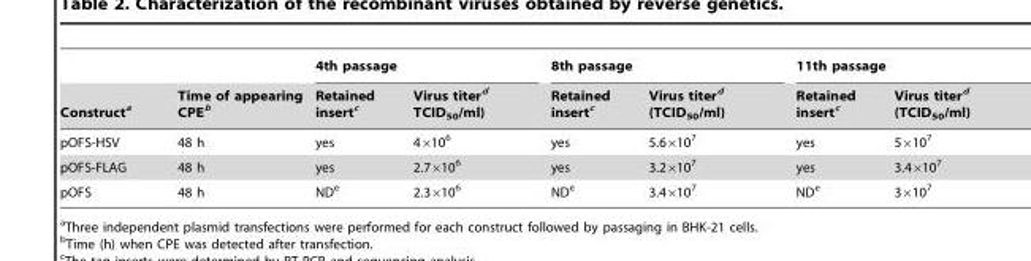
<table><thead><tr><td rowspan="2">Construct<sup>a</sup></td><td rowspan="2">Time of appearing CPE<sup>b</sup></td><td colspan="2">4th passage</td><td colspan="2">8th passage</td><td colspan="2">11th passage</td></tr><tr><td>Retained insert<sup>c</sup></td><td>Virus titer<sup>d</sup> TCID<sub>50</sub>/ml)</td><td>Retained insert<sup>c</sup></td><td>Virus titer<sup>d</sup> (TCID<sub>50</sub>/ml)</td><td>Retained insert<sup>c</sup></td><td>Virus titer<sup>d</sup> (TCID<sub>50</sub>/ml)</td></tr></thead><tbody><tr><td>pOFS-HSV</td><td>48 h</td><td>yes</td><td>4×10<sup>6</sup></td><td>yes</td><td>5.6×10<sup>7</sup></td><td>yes</td><td>5×10<sup>7</sup></td></tr><tr><td>pOFS-FLAG</td><td>48 h</td><td>yes</td><td>2.7×10<sup>6</sup></td><td>yes</td><td>3.2×10<sup>7</sup></td><td>yes</td><td>3.4×10<sup>7</sup></td></tr><tr><td>pOFS</td><td>48 h</td><td>ND<sup>e</sup></td><td>2.3×10<sup>6</sup></td><td>ND<sup>e</sup></td><td>3.4×10<sup>7</sup></td><td>ND<sup>e</sup></td><td>3×10<sup>7</sup></td></tr></tbody></table>